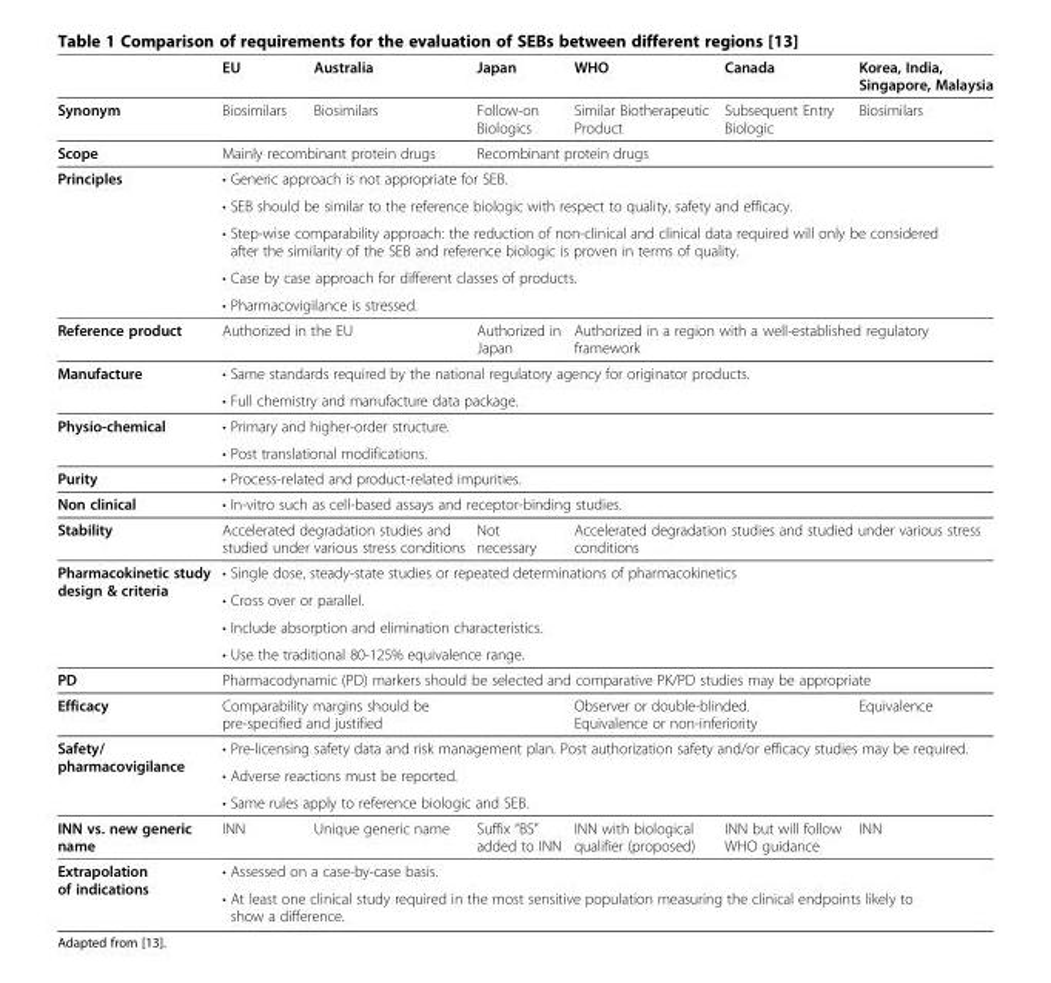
<table><thead><tr><td></td><td>EU</td><td>Australia</td><td>Japan</td><td>WHO</td><td>Canada</td><td>Korea, India, Singapore, Malaysia</td></tr></thead><tbody><tr><td>Synonym</td><td>Biosimilars</td><td>Biosimilars</td><td>Follow-on Biologics</td><td>Similar Biotherapeutic Product</td><td>Subsequent Entry Biologic</td><td>Biosimilars</td></tr><tr><td>Scope</td><td colspan="2">Mainly recombinant protein drugs</td><td colspan="4">Recombinant protein drugs</td></tr><tr><td rowspan="5">Principles</td><td colspan="6">• Generic approach is not appropriate for SEB.</td></tr><tr><td colspan="6">• SEB should be similar to the reference biologic with respect to quality, safety and efficacy.</td></tr><tr><td colspan="6">• Step-wise comparability approach: the reduction of non-clinical and clinical data required will only be considered after the similarity of the SEB and reference biologic is proven in terms of quality.</td></tr><tr><td colspan="6">• Case by case approach for different classes of products.</td></tr><tr><td colspan="6">• Pharmacovigilance is stressed.</td></tr><tr><td>Reference product</td><td colspan="2">Authorized in the EU</td><td>Authorized in Japan</td><td colspan="3">Authorized in a region with a well-established regulatory framework</td></tr><tr><td rowspan="2">Manufacture</td><td colspan="6">• Same standards required by the national regulatory agency for originator products.</td></tr><tr><td colspan="6">• Full chemistry and manufacture data package.</td></tr><tr><td rowspan="2">Physio-chemical</td><td colspan="6">• Primary and higher-order structure.</td></tr><tr><td colspan="6">• Post translational modifications.</td></tr><tr><td>Purity</td><td colspan="6">• Process-related and product-related impurities.</td></tr><tr><td>Non clinical</td><td colspan="6">• In-vitro such as cell-based assays and receptor-binding studies.</td></tr><tr><td>Stability</td><td colspan="2">Accelerated degradation studies and studied under various stress conditions</td><td>Not necessary</td><td colspan="3">Accelerated degradation studies and studied under various stress conditions</td></tr><tr><td rowspan="4">Pharmacokinetic study design &amp; criteria</td><td colspan="6">• Single dose, steady-state studies or repeated determinations of pharmacokinetics</td></tr><tr><td colspan="6">• Cross over or parallel.</td></tr><tr><td colspan="6">• Include absorption and elimination characteristics.</td></tr><tr><td colspan="6">• Use the traditional 80-125% equivalence range.</td></tr><tr><td>PD</td><td colspan="6">Pharmacodynamic (PD) markers should be selected and comparative PK/PD studies may be appropriate</td></tr><tr><td>Efficacy</td><td colspan="3">Comparability margins should be pre-specified and justified</td><td colspan="2">Observer or double-blinded. Equivalence or non-inferiority</td><td>Equivalence</td></tr><tr><td rowspan="3">Safety/ pharmacovigilance</td><td colspan="6">• Pre-licensing safety data and risk management plan. Post authorization safety and/or efficacy studies may be required.</td></tr><tr><td colspan="6">• Adverse reactions must be reported.</td></tr><tr><td colspan="6">• Same rules apply to reference biologic and SEB.</td></tr><tr><td>INN vs. new generic name</td><td>INN</td><td>Unique generic name</td><td>Suffix “BS” added to INN</td><td>INN with biological qualifier (proposed)</td><td>INN but will follow WHO guidance</td><td>INN</td></tr><tr><td rowspan="2">Extrapolation of indications</td><td colspan="6">• Assessed on a case-by-case basis.</td></tr><tr><td colspan="6">• At least one clinical study required in the most sensitive population measuring the clinical endpoints likely to show a difference.</td></tr></tbody></table>